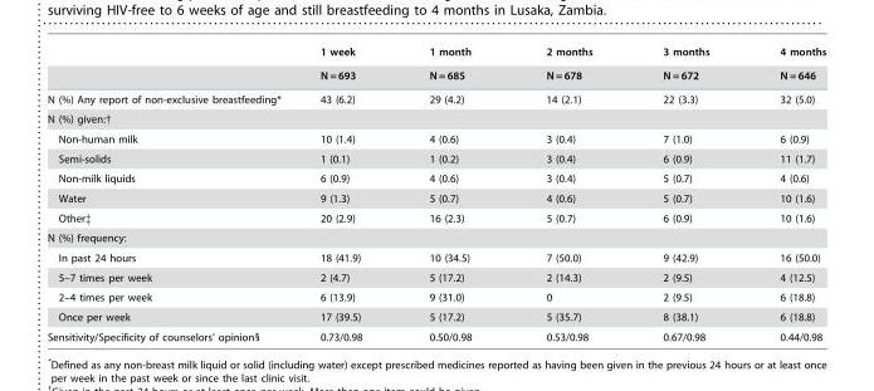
<table><thead><tr><td rowspan="2"></td><td rowspan="2">1 week N = 693</td><td rowspan="2">1 month N = 685</td><td rowspan="2">2 months N = 678</td><td rowspan="2">3 months N = 672</td><td rowspan="2">4 months N = 646</td></tr><tr></tr></thead><tbody><tr><td>N (%) Any report of non-exclusive breastfeeding*</td><td>43 (6.2)</td><td>29 (4.2)</td><td>14 (2.1)</td><td>22 (3.3)</td><td>32 (5.0)</td></tr><tr><td colspan="6">N (%) given:†</td></tr><tr><td>Non-human milk</td><td>10 (1.4)</td><td>4 (0.6)</td><td>3 (0.4)</td><td>7 (1.0)</td><td>6 (0.9)</td></tr><tr><td>Semi-solids</td><td>1 (0.1)</td><td>1 (0.2)</td><td>3 (0.4)</td><td>6 (0.9)</td><td>11 (1.7)</td></tr><tr><td>Non-milk liquids</td><td>6 (0.9)</td><td>4 (0.6)</td><td>3 (0.4)</td><td>5 (0.7)</td><td>4 (0.6)</td></tr><tr><td>Water</td><td>9 (1.3)</td><td>5 (0.7)</td><td>4 (0.6)</td><td>5 (0.7)</td><td>10 (1.6)</td></tr><tr><td>Other‡</td><td>20 (2.9)</td><td>16 (2.3)</td><td>5 (0.7)</td><td>6 (0.9)</td><td>10 (1.6)</td></tr><tr><td colspan="6">N (%) frequency:</td></tr><tr><td>In past 24 hours</td><td>18 (41.9)</td><td>10 (34.5)</td><td>7 (50.0)</td><td>9 (42.9)</td><td>16 (50.0)</td></tr><tr><td>5–7 times per week</td><td>2 (4.7)</td><td>5 (17.2)</td><td>2 (14.3)</td><td>2 (9.5)</td><td>4 (12.5)</td></tr><tr><td>2–4 times per week</td><td>6 (13.9)</td><td>9 (31.0)</td><td>0</td><td>2 (9.5)</td><td>6 (18.8)</td></tr><tr><td>Once per week</td><td>17 (39.5)</td><td>5 (17.2)</td><td>5 (35.7)</td><td>8 (38.1)</td><td>6 (18.8)</td></tr><tr><td>Sensitivity/Specificity of counselors’ opinion§</td><td>0.73/0.98</td><td>0.50/0.98</td><td>0.53/0.98</td><td>0.67/0.98</td><td>0.44/0.98</td></tr></tbody></table>